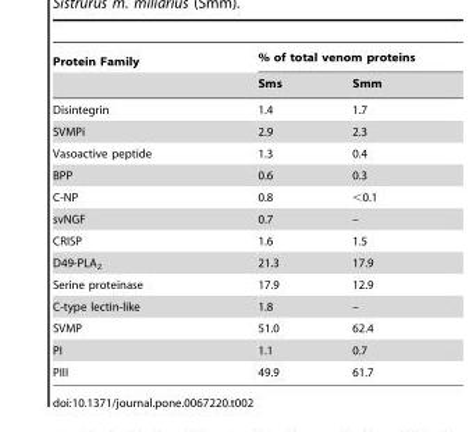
<table><thead><tr><td rowspan="2">Protein Family</td><td colspan="2">% of total venom proteins</td></tr><tr><td>Sms</td><td>Smm</td></tr></thead><tbody><tr><td>Disintegrin</td><td>1.4</td><td>1.7</td></tr><tr><td>SVMPi</td><td>2.9</td><td>2.3</td></tr><tr><td>Vasoactive peptide</td><td>1.3</td><td>0.4</td></tr><tr><td>BPP</td><td>0.6</td><td>0.3</td></tr><tr><td>C-NP</td><td>0.8</td><td>&lt;0.1</td></tr><tr><td>svNGF</td><td>0.7</td><td>–</td></tr><tr><td>CRISP</td><td>1.6</td><td>1.5</td></tr><tr><td>D49-PLA<sub>2</sub></td><td>21.3</td><td>17.9</td></tr><tr><td>Serine proteinase</td><td>17.9</td><td>12.9</td></tr><tr><td>C-type lectin-like</td><td>1.8</td><td>–</td></tr><tr><td>SVMP</td><td>51.0</td><td>62.4</td></tr><tr><td>PI</td><td>1.1</td><td>0.7</td></tr><tr><td>PIII</td><td>49.9</td><td>61.7</td></tr></tbody></table>